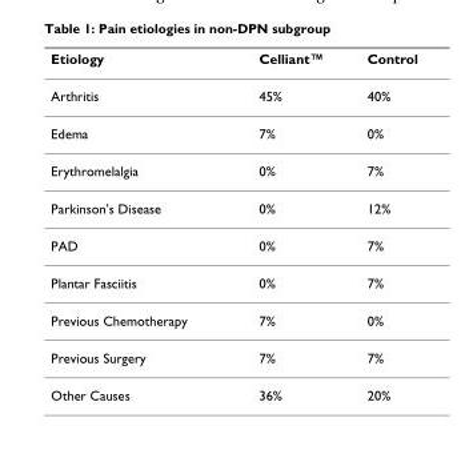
<table><thead><tr><td>Etiology</td><td>Celliant™</td><td>Control</td></tr></thead><tbody><tr><td>Arthritis</td><td>45%</td><td>40%</td></tr><tr><td>Edema</td><td>7%</td><td>0%</td></tr><tr><td>Erythromelalgia</td><td>0%</td><td>7%</td></tr><tr><td>Parkinson&#x27;s Disease</td><td>0%</td><td>12%</td></tr><tr><td>PAD</td><td>0%</td><td>7%</td></tr><tr><td>Plantar Fasciitis</td><td>0%</td><td>7%</td></tr><tr><td>Previous Chemotherapy</td><td>7%</td><td>0%</td></tr><tr><td>Previous Surgery</td><td>7%</td><td>7%</td></tr><tr><td>Other Causes</td><td>36%</td><td>20%</td></tr></tbody></table>